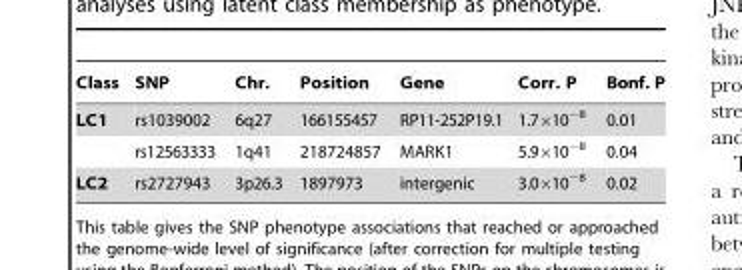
<table><thead><tr><td>Class</td><td>SNP</td><td>Chr.</td><td>Position</td><td>Gene</td><td>Corr. P</td><td>Bonf. P</td></tr></thead><tbody><tr><td rowspan="2">LC1</td><td>rs1039002</td><td>6q27</td><td>166155457</td><td>RP11-252P19.1</td><td>1.7×10<sup>−8</sup></td><td>0.01</td></tr><tr><td>rs12563333</td><td>1q41</td><td>218724857</td><td>MARK1</td><td>5.9×10<sup>−8</sup></td><td>0.04</td></tr><tr><td>LC2</td><td>rs2727943</td><td>3p26.3</td><td>1897973</td><td>intergenic</td><td>3.0×10<sup>−8</sup></td><td>0.02</td></tr></tbody></table>